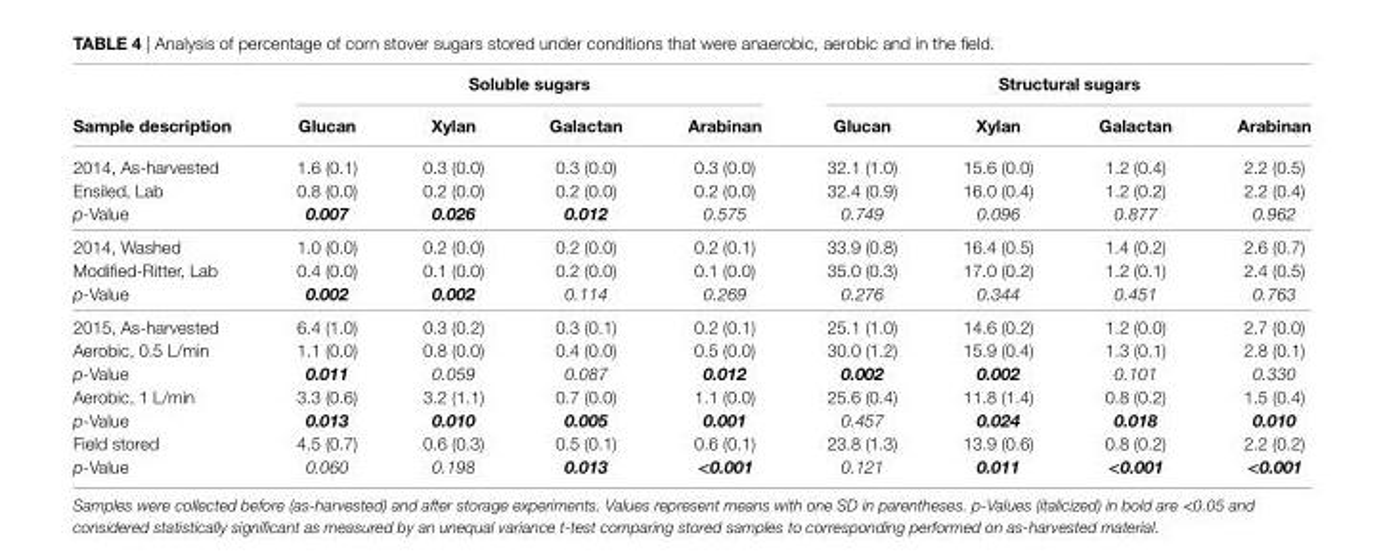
<table><thead><tr><td rowspan="2">sample description</td><td colspan="4">soluble sugars</td><td colspan="4">structural sugars</td></tr><tr><td>glucan</td><td>Xylan</td><td>galactan</td><td>arabinan</td><td>glucan</td><td>Xylan</td><td>galactan</td><td>arabinan</td></tr></thead><tbody><tr><td>2014, As-harvested</td><td>1.6 (0.1)</td><td>0.3 (0.0)</td><td>0.3 (0.0)</td><td>0.3 (0.0)</td><td>32.1 (1.0)</td><td>15.6 (0.0)</td><td>1.2 (0.4)</td><td>2.2 (0.5)</td></tr><tr><td>Ensiled, Lab</td><td>0.8 (0.0)</td><td>0.2 (0.0)</td><td>0.2 (0.0)</td><td>0.2 (0.0)</td><td>32.4 (0.9)</td><td>16.0 (0.4)</td><td>1.2 (0.2)</td><td>2.2 (0.4)</td></tr><tr><td>p-Value</td><td>0.007</td><td>0.026</td><td>0.012</td><td>0.575</td><td>0.749</td><td>0.096</td><td>0.877</td><td>0.962</td></tr><tr><td>2014, Washed</td><td>1.0 (0.0)</td><td>0.2 (0.0)</td><td>0.2 (0.0)</td><td>0.2 (0.1)</td><td>33.9 (0.8)</td><td>16.4 (0.5)</td><td>1.4 (0.2)</td><td>2.6 (0.7)</td></tr><tr><td>Modified-Ritter, Lab</td><td>0.4 (0.0)</td><td>0.1 (0.0)</td><td>0.2 (0.0)</td><td>0.1 (0.0)</td><td>35.0 (0.3)</td><td>17.0 (0.2)</td><td>1.2 (0.1)</td><td>2.4 (0.5)</td></tr><tr><td>p-Value</td><td>0.002</td><td>0.002</td><td>0.114</td><td>0.269</td><td>0.276</td><td>0.344</td><td>0.451</td><td>0.763</td></tr><tr><td>2015, As-harvested</td><td>6.4 (1.0)</td><td>0.3 (0.2)</td><td>0.3 (0.1)</td><td>0.2 (0.1)</td><td>25.1 (1.0)</td><td>14.6 (0.2)</td><td>1.2 (0.0)</td><td>2.7 (0.0)</td></tr><tr><td>Aerobic, 0.5 L/min</td><td>1.1 (0.0)</td><td>0.8 (0.0)</td><td>0.4 (0.0)</td><td>0.5 (0.0)</td><td>30.0 (1.2)</td><td>15.9 (0.4)</td><td>1.3 (0.1)</td><td>2.8 (0.1)</td></tr><tr><td>p-Value</td><td>0.011</td><td>0.059</td><td>0.087</td><td>0.012</td><td>0.002</td><td>0.002</td><td>0.101</td><td>0.330</td></tr><tr><td>Aerobic, 1 L/min</td><td>3.3 (0.6)</td><td>3.2 (1.1)</td><td>0.7 (0.0)</td><td>1.1 (0.0)</td><td>25.6 (0.4)</td><td>11.8 (1.4)</td><td>0.8 (0.2)</td><td>1.5 (0.4)</td></tr><tr><td>p-Value</td><td>0.013</td><td>0.010</td><td>0.005</td><td>0.001</td><td>0.457</td><td>0.024</td><td>0.018</td><td>0.010</td></tr><tr><td>Field stored</td><td>4.5 (0.7)</td><td>0.6 (0.3)</td><td>0.5 (0.1)</td><td>0.6 (0.1)</td><td>23.8 (1.3)</td><td>13.9 (0.6)</td><td>0.8 (0.2)</td><td>2.2 (0.2)</td></tr><tr><td>p-Value</td><td>0.060</td><td>0.198</td><td>0.013</td><td>&lt;0.001</td><td>0.121</td><td>0.011</td><td>&lt;0.001</td><td>&lt;0.001</td></tr></tbody></table>